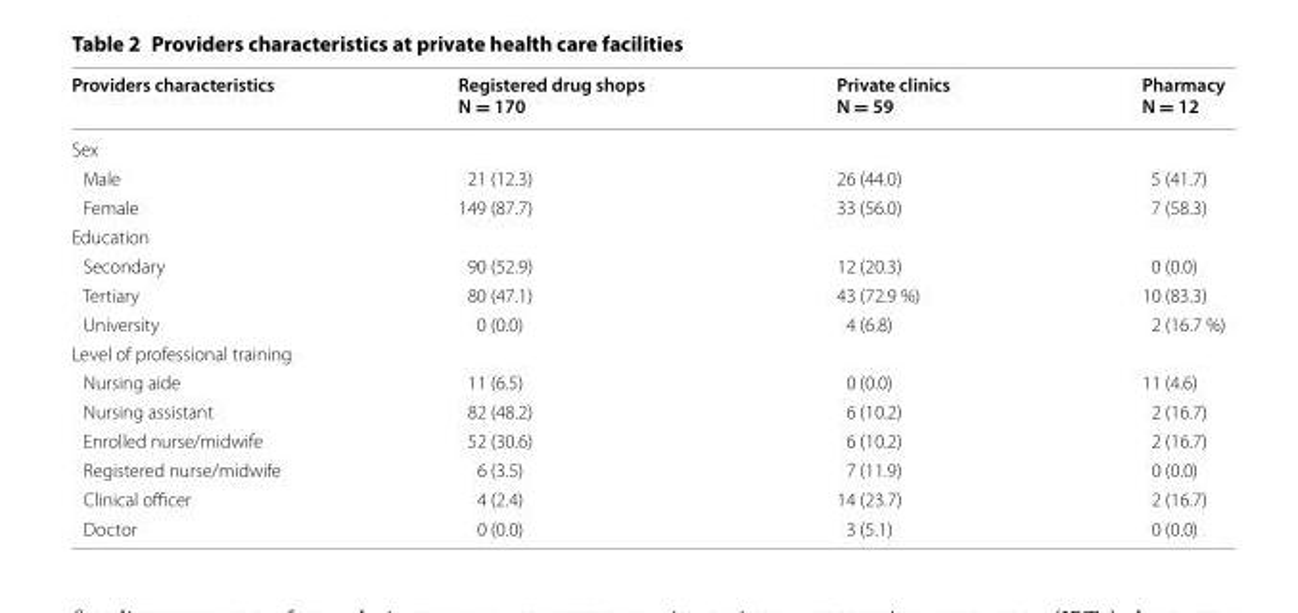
<table><thead><tr><td>Providers characteristics</td><td>Registered drug shops N = 170</td><td>Private clinics N = 59</td><td>Pharmacy N = 12</td></tr></thead><tbody><tr><td colspan="4">Sex</td></tr><tr><td>Male</td><td>21 (12.3)</td><td>26 (44.0)</td><td>5 (41.7)</td></tr><tr><td>Female</td><td>149 (87.7)</td><td>33 (56.0)</td><td>7 (58.3)</td></tr><tr><td colspan="4">Education</td></tr><tr><td>Secondary</td><td>90 (52.9)</td><td>12 (20.3)</td><td>0 (0.0)</td></tr><tr><td>Tertiary</td><td>80 (47.1)</td><td>43 (72.9 %)</td><td>10 (83.3)</td></tr><tr><td>University</td><td>0 (0.0)</td><td>4 (6.8)</td><td>2 (16.7 %)</td></tr><tr><td colspan="4">Level of professional training</td></tr><tr><td>Nursing aide</td><td>11 (6.5)</td><td>0 (0.0)</td><td>11 (4.6)</td></tr><tr><td>Nursing assistant</td><td>82 (48.2)</td><td>6 (10.2)</td><td>2 (16.7)</td></tr><tr><td>Enrolled nurse/midwife</td><td>52 (30.6)</td><td>6 (10.2)</td><td>2 (16.7)</td></tr><tr><td>Registered nurse/midwife</td><td>6 (3.5)</td><td>7 (11.9)</td><td>0 (0.0)</td></tr><tr><td>Clinical officer</td><td>4 (2.4)</td><td>14 (23.7)</td><td>2 (16.7)</td></tr><tr><td>Doctor</td><td>0 (0.0)</td><td>3 (5.1)</td><td>0 (0.0)</td></tr></tbody></table>